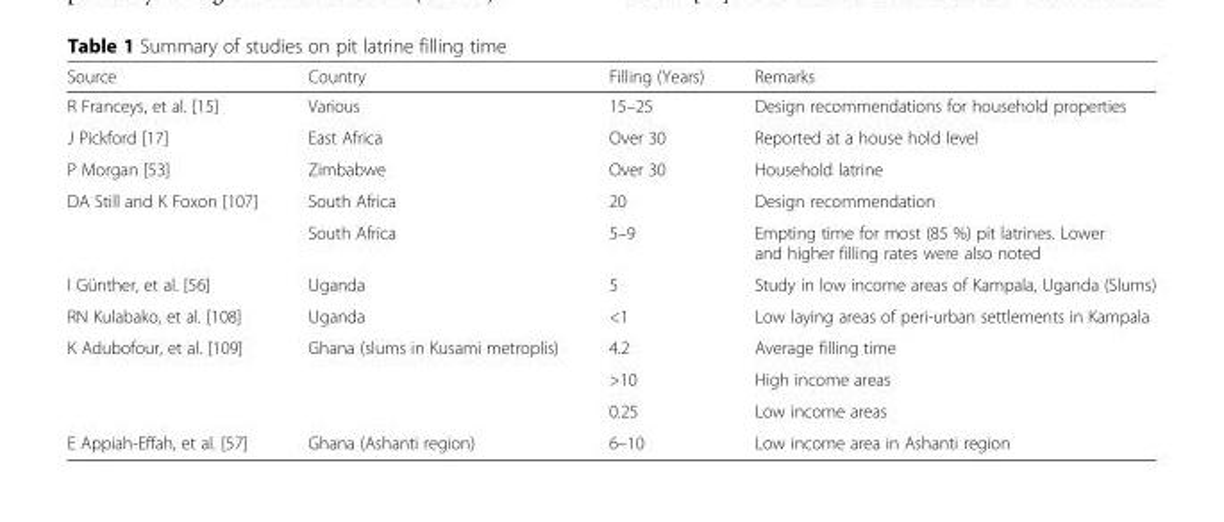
<table><thead><tr><td>Source</td><td>Country</td><td>Filling (Years)</td><td>Remarks</td></tr></thead><tbody><tr><td>R Franceys, et al. [15]</td><td>Various</td><td>15–25</td><td>Design recommendations for household properties</td></tr><tr><td>J Pickford [17]</td><td>East Africa</td><td>Over 30</td><td>Reported at a house hold level</td></tr><tr><td>P Morgan [53]</td><td>Zimbabwe</td><td>Over 30</td><td>Household latrine</td></tr><tr><td rowspan="2">DA Still and K Foxon [107]</td><td>South Africa</td><td>20</td><td>Design recommendation</td></tr><tr><td>South Africa</td><td>5–9</td><td>Empting time for most (85 %) pit latrines. Lower and higher filling rates were also noted</td></tr><tr><td>I Günther, et al. [56]</td><td>Uganda</td><td>5</td><td>Study in low income areas of Kampala, Uganda (Slums)</td></tr><tr><td>RN Kulabako, et al. [108]</td><td>Uganda</td><td>&lt;1</td><td>Low laying areas of peri-urban settlements in Kampala</td></tr><tr><td rowspan="3">K Adubofour, et al. [109]</td><td rowspan="3">Ghana (slums in Kusami metroplis)</td><td>4.2</td><td>Average filling time</td></tr><tr><td>&gt;10</td><td>High income areas</td></tr><tr><td>0.25</td><td>Low income areas</td></tr><tr><td>E Appiah-Effah, et al. [57]</td><td>Ghana (Ashanti region)</td><td>6–10</td><td>Low income area in Ashanti region</td></tr></tbody></table>